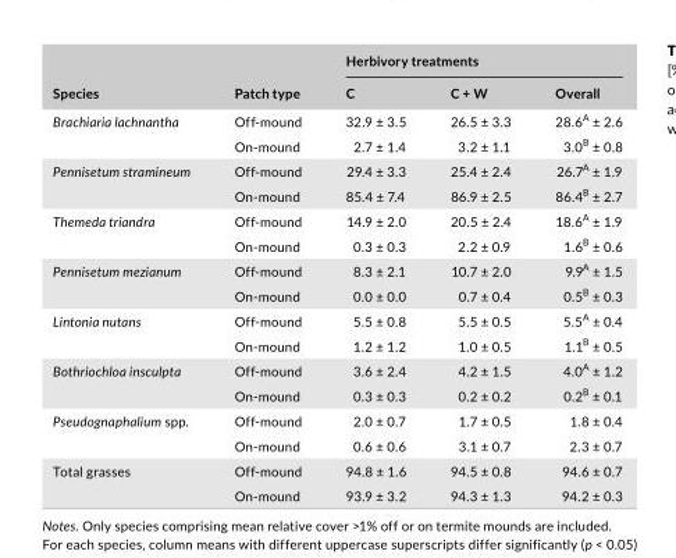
<table><thead><tr><td rowspan="2">Species</td><td rowspan="2">Patch type</td><td colspan="3">Herbivory treatments</td></tr><tr><td>C</td><td>C + W</td><td>Overall</td></tr></thead><tbody><tr><td rowspan="2">Brachiaria lachnantha</td><td>Off- mound</td><td>32.9 ± 3.5</td><td>26.5 ± 3.3</td><td>28.6<sup>A</sup> ± 2.6</td></tr><tr><td>On- mound</td><td>2.7 ± 1.4</td><td>3.2 ± 1.1</td><td>3.0<sup>B</sup> ± 0.8</td></tr><tr><td rowspan="2">Pennisetum stramineum</td><td>Off- mound</td><td>29.4 ± 3.3</td><td>25.4 ± 2.4</td><td>26.7<sup>A</sup> ± 1.9</td></tr><tr><td>On- mound</td><td>85.4 ± 7.4</td><td>86.9 ± 2.5</td><td>86.4<sup>B</sup> ± 2.7</td></tr><tr><td rowspan="2">Themeda triandra</td><td>Off- mound</td><td>14.9 ± 2.0</td><td>20.5 ± 2.4</td><td>18.6<sup>A</sup> ± 1.9</td></tr><tr><td>On- mound</td><td>0.3 ± 0.3</td><td>2.2 ± 0.9</td><td>1.6<sup>B</sup> ± 0.6</td></tr><tr><td rowspan="2">Pennisetum mezianum</td><td>Off- mound</td><td>8.3 ± 2.1</td><td>10.7 ± 2.0</td><td>9.9<sup>A</sup> ± 1.5</td></tr><tr><td>On- mound</td><td>0.0 ± 0.0</td><td>0.7 ± 0.4</td><td>0.5<sup>B</sup> ± 0.3</td></tr><tr><td rowspan="2">Lintonia nutans</td><td>Off- mound</td><td>5.5 ± 0.8</td><td>5.5 ± 0.5</td><td>5.5<sup>A</sup> ± 0.4</td></tr><tr><td>On- mound</td><td>1.2 ± 1.2</td><td>1.0 ± 0.5</td><td>1.1<sup>B</sup> ± 0.5</td></tr><tr><td rowspan="2">Bothriochloa insculpta</td><td>Off- mound</td><td>3.6 ± 2.4</td><td>4.2 ± 1.5</td><td>4.0<sup>A</sup> ± 1.2</td></tr><tr><td>On- mound</td><td>0.3 ± 0.3</td><td>0.2 ± 0.2</td><td>0.2<sup>B</sup> ± 0.1</td></tr><tr><td rowspan="2">Pseudognaphalium spp.</td><td>Off- mound</td><td>2.0 ± 0.7</td><td>1.7 ± 0.5</td><td>1.8 ± 0.4</td></tr><tr><td>On- mound</td><td>0.6 ± 0.6</td><td>3.1 ± 0.7</td><td>2.3 ± 0.7</td></tr><tr><td rowspan="2">Total grasses</td><td>Off- mound</td><td>94.8 ± 1.6</td><td>94.5 ± 0.8</td><td>94.6 ± 0.7</td></tr><tr><td>On- mound</td><td>93.9 ± 3.2</td><td>94.3 ± 1.3</td><td>94.2 ± 0.3</td></tr></tbody></table>